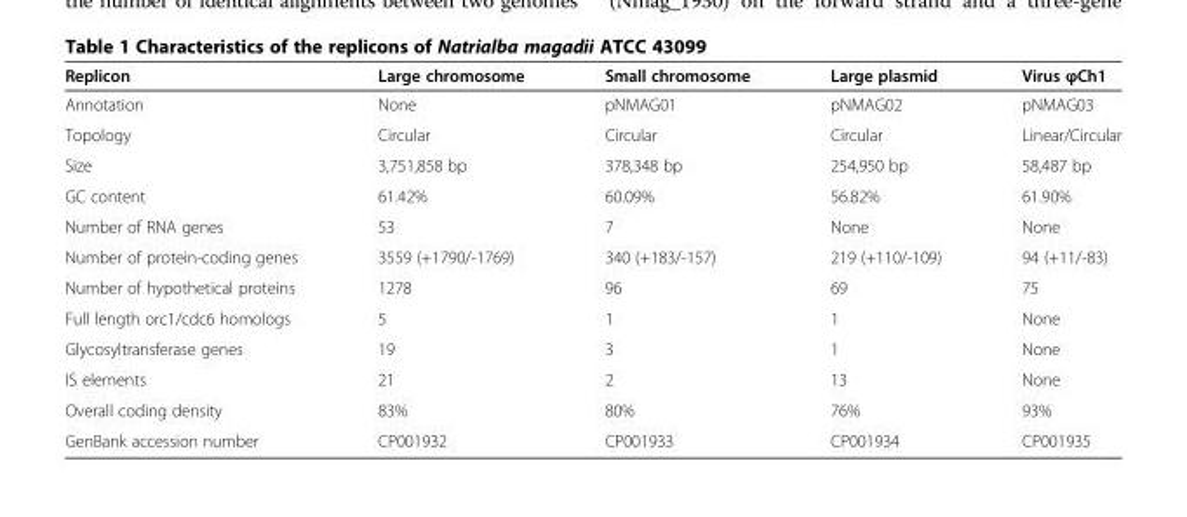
<table><thead><tr><td>Replicon</td><td>Large chromosome</td><td>Small chromosome</td><td>Large plasmid</td><td>Virus φCh1</td></tr></thead><tbody><tr><td>Annotation</td><td>None</td><td>pNMAG01</td><td>pNMAG02</td><td>pNMAG03</td></tr><tr><td>Topology</td><td>Circular</td><td>Circular</td><td>Circular</td><td>Linear/Circular</td></tr><tr><td>Size</td><td>3,751,858 bp</td><td>378,348 bp</td><td>254,950 bp</td><td>58,487 bp</td></tr><tr><td>GC content</td><td>61.42%</td><td>60.09%</td><td>56.82%</td><td>61.90%</td></tr><tr><td>Number of RNA genes</td><td>53</td><td>7</td><td>None</td><td>None</td></tr><tr><td>Number of protein-coding genes</td><td>3559 (+1790/-1769)</td><td>340 (+183/-157)</td><td>219 (+110/-109)</td><td>94 (+11/-83)</td></tr><tr><td>Number of hypothetical proteins</td><td>1278</td><td>96</td><td>69</td><td>75</td></tr><tr><td>Full length orc1/cdc6 homologs</td><td>5</td><td>1</td><td>1</td><td>None</td></tr><tr><td>Glycosyltransferase genes</td><td>19</td><td>3</td><td>1</td><td>None</td></tr><tr><td>IS elements</td><td>21</td><td>2</td><td>13</td><td>None</td></tr><tr><td>Overall coding density</td><td>83%</td><td>80%</td><td>76%</td><td>93%</td></tr><tr><td>GenBank accession number</td><td>CP001932</td><td>CP001933</td><td>CP001934</td><td>CP001935</td></tr></tbody></table>